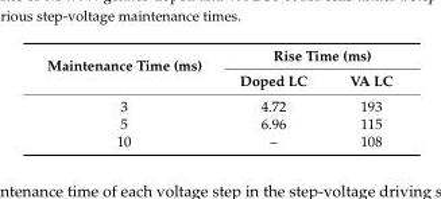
<table><thead><tr><td rowspan="2">Maintenance Time (ms)</td><td colspan="2">Rise Time (ms)</td></tr><tr><td>Doped LC</td><td>VA LC</td></tr></thead><tbody><tr><td>3</td><td>4.72</td><td>193</td></tr><tr><td>5</td><td>6.96</td><td>115</td></tr><tr><td>10</td><td>–</td><td>108</td></tr></tbody></table>